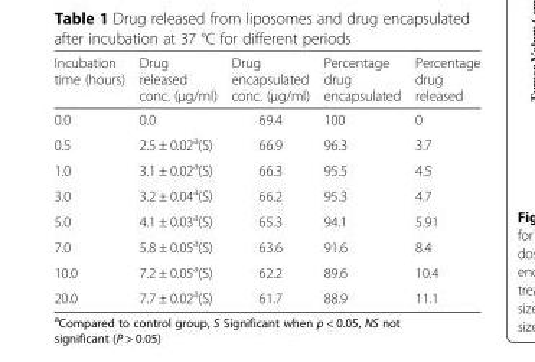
<table><thead><tr><td>Incubation time (hours)</td><td>Drug released conc. (μg/ml)</td><td>Drug encapsulated conc. (μg/ml)</td><td>Percentage drug encapsulated</td><td>Percentage drug released</td></tr></thead><tbody><tr><td>0.0</td><td>0.0</td><td>69.4</td><td>100</td><td>0</td></tr><tr><td>0.5</td><td>2.5 ± 0.02<sup>a</sup>(S)</td><td>66.9</td><td>96.3</td><td>3.7</td></tr><tr><td>1.0</td><td>3.1 ± 0.02<sup>a</sup>(S)</td><td>66.3</td><td>95.5</td><td>4.5</td></tr><tr><td>3.0</td><td>3.2 ± 0.04<sup>a</sup>(S)</td><td>66.2</td><td>95.3</td><td>4.7</td></tr><tr><td>5.0</td><td>4.1 ± 0.03<sup>a</sup>(S)</td><td>65.3</td><td>94.1</td><td>5.91</td></tr><tr><td>7.0</td><td>5.8 ± 0.05<sup>a</sup>(S)</td><td>63.6</td><td>91.6</td><td>8.4</td></tr><tr><td>10.0</td><td>7.2 ± 0.05<sup>a</sup>(S)</td><td>62.2</td><td>89.6</td><td>10.4</td></tr><tr><td>20.0</td><td>7.7 ± 0.02<sup>a</sup>(S)</td><td>61.7</td><td>88.9</td><td>11.1</td></tr></tbody></table>